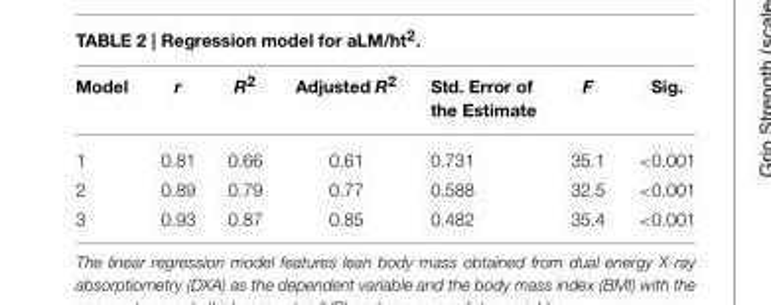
<table><thead><tr><td>Model</td><td>r</td><td>R<sup>2</sup></td><td>Adjusted R<sup>2</sup></td><td>Std. Error of the Estimate</td><td>F</td><td>Sig.</td></tr></thead><tbody><tr><td>1</td><td>0.81</td><td>0.66</td><td>0.61</td><td>0.731</td><td>35.1</td><td>&lt;0.001</td></tr><tr><td>2</td><td>0.89</td><td>0.79</td><td>0.77</td><td>0.588</td><td>32.5</td><td>&lt;0.001</td></tr><tr><td>3</td><td>0.93</td><td>0.87</td><td>0.85</td><td>0.482</td><td>35.4</td><td>&lt;0.001</td></tr></tbody></table>